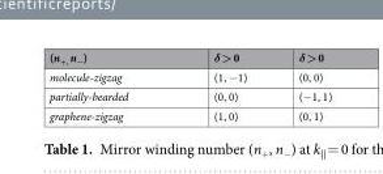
<table><thead><tr><td>(n<sub>+,</sub> n<sub>−</sub>)</td><td>δ &gt; 0</td><td>δ &gt; 0</td></tr></thead><tbody><tr><td>molecule-zigzag</td><td>(1, −1)</td><td>(0, 0)</td></tr><tr><td>partially-bearded</td><td>(0, 0)</td><td>(−1, 1)</td></tr><tr><td>graphene-zigzag</td><td>(1, 0)</td><td>(0, 1)</td></tr></tbody></table>